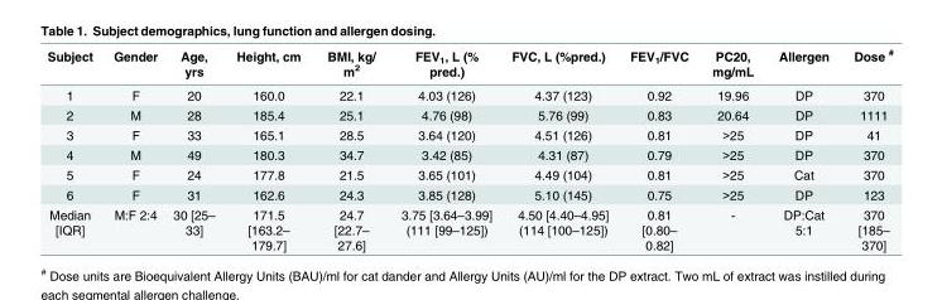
<table><thead><tr><td>Subject</td><td>Gender</td><td>Age, yrs</td><td>Height, cm</td><td>BMI, kg/ m<sup>2</sup></td><td>FEV<sub>1</sub>, L (% pred.)</td><td>FVC, L (%pred.)</td><td>FEV<sub>1</sub>/FVC</td><td>PC20, mg/mL</td><td>Allergen</td><td>Dose <sup>#</sup></td></tr></thead><tbody><tr><td>1</td><td>F</td><td>20</td><td>160.0</td><td>22.1</td><td>4.03 (126)</td><td>4.37 (123)</td><td>0.92</td><td>19.96</td><td>DP</td><td>370</td></tr><tr><td>2</td><td>M</td><td>28</td><td>185.4</td><td>25.1</td><td>4.76 (98)</td><td>5.76 (99)</td><td>0.83</td><td>20.64</td><td>DP</td><td>1111</td></tr><tr><td>3</td><td>F</td><td>33</td><td>165.1</td><td>28.5</td><td>3.64 (120)</td><td>4.51 (126)</td><td>0.81</td><td>&gt;25</td><td>DP</td><td>41</td></tr><tr><td>4</td><td>M</td><td>49</td><td>180.3</td><td>34.7</td><td>3.42 (85)</td><td>4.31 (87)</td><td>0.79</td><td>&gt;25</td><td>DP</td><td>370</td></tr><tr><td>5</td><td>F</td><td>24</td><td>177.8</td><td>21.5</td><td>3.65 (101)</td><td>4.49 (104)</td><td>0.81</td><td>&gt;25</td><td>Cat</td><td>370</td></tr><tr><td>6</td><td>F</td><td>31</td><td>162.6</td><td>24.3</td><td>3.85 (128)</td><td>5.10 (145)</td><td>0.75</td><td>&gt;25</td><td>DP</td><td>123</td></tr><tr><td>Median [IQR]</td><td>M:F 2:4</td><td>30 [25– 33]</td><td>171.5 [163.2– 179.7]</td><td>24.7 [22.7– 27.6]</td><td>3.75 [3.64–3.99] (111 [99–125])</td><td>4.50 [4.40–4.95] (114 [100–125])</td><td>0.81 [0.80– 0.82]</td><td>-</td><td>DP:Cat 5:1</td><td>370 [185– 370]</td></tr></tbody></table>